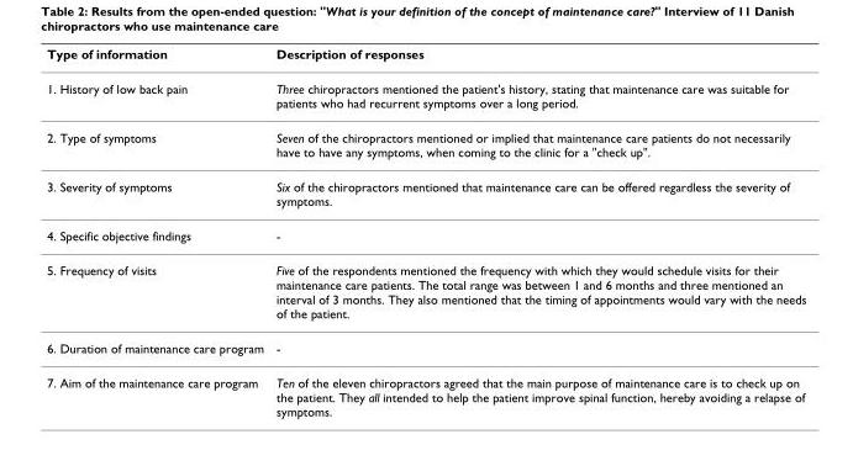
<table><thead><tr><td>Type of information</td><td>Description of responses</td></tr></thead><tbody><tr><td>1. History of low back pain</td><td>Three chiropractors mentioned the patient&#x27;s history, stating that maintenance care was suitable for patients who had recurrent symptoms over a long period.</td></tr><tr><td>2. Type of symptoms</td><td>Seven of the chiropractors mentioned or implied that maintenance care patients do not necessarily have to have any symptoms, when coming to the clinic for a &quot;check up&quot;.</td></tr><tr><td>3. Severity of symptoms</td><td>Six of the chiropractors mentioned that maintenance care can be offered regardless the severity of symptoms.</td></tr><tr><td>4. Specific objective findings</td><td>-</td></tr><tr><td>5. Frequency of visits</td><td>Five of the respondents mentioned the frequency with which they would schedule visits for their maintenance care patients. The total range was between 1 and 6 months and three mentioned an interval of 3 months. They also mentioned that the timing of appointments would vary with the needs of the patient.</td></tr><tr><td>6. Duration of maintenance care program</td><td>-</td></tr><tr><td>7. Aim of the maintenance care program</td><td>Ten of the eleven chiropractors agreed that the main purpose of maintenance care is to check up on the patient. They all intended to help the patient improve spinal function, hereby avoiding a relapse of symptoms.</td></tr></tbody></table>